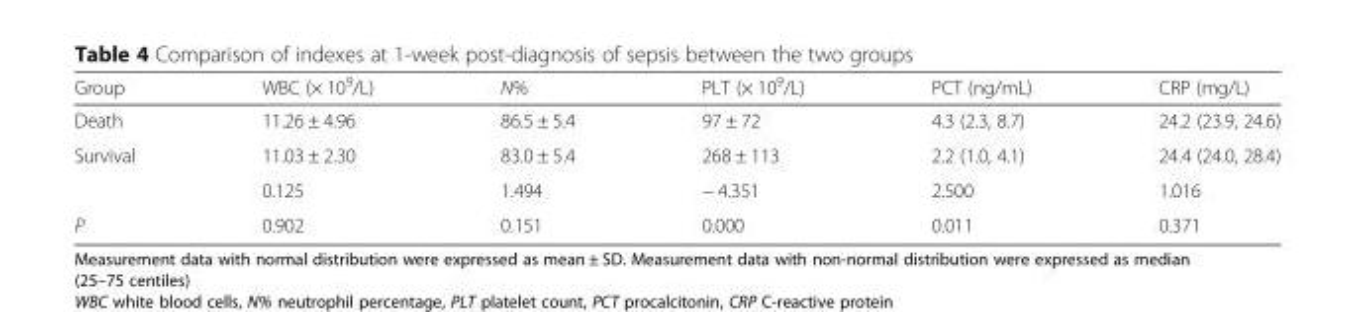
<table><thead><tr><td>Group</td><td>WBC (× 10<sup>9</sup>/L)</td><td>N%</td><td>PLT (× 10<sup>9</sup>/L)</td><td>PCT (ng/mL)</td><td>CRP (mg/L)</td></tr></thead><tbody><tr><td>Death</td><td>11.26 ± 4.96</td><td>86.5 ± 5.4</td><td>97 ± 72</td><td>4.3 (2.3, 8.7)</td><td>24.2 (23.9, 24.6)</td></tr><tr><td rowspan="2">Survival</td><td>11.03 ± 2.30</td><td>83.0 ± 5.4</td><td>268 ± 113</td><td>2.2 (1.0, 4.1)</td><td>24.4 (24.0, 28.4)</td></tr><tr><td>0.125</td><td>1.494</td><td>− 4.351</td><td>2.500</td><td>1.016</td></tr><tr><td>P</td><td>0.902</td><td>0.151</td><td>0.000</td><td>0.011</td><td>0.371</td></tr></tbody></table>